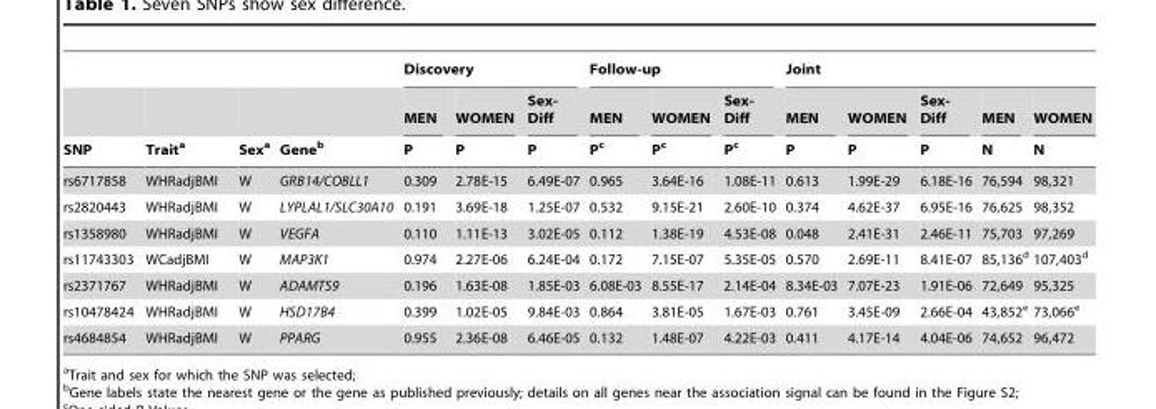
<table><thead><tr><td rowspan="3">SNP</td><td rowspan="3">Trait<sup>a</sup></td><td rowspan="3">Sex<sup>a</sup></td><td rowspan="3">Gene<sup>b</sup></td><td colspan="3">Discovery</td><td colspan="3">Follow-up</td><td colspan="5">Joint</td></tr><tr><td rowspan="2">MEN P</td><td rowspan="2">WOMEN P</td><td rowspan="2">Sex- Diff P</td><td rowspan="2">MEN P<sup>c</sup></td><td rowspan="2">WOMEN P<sup>c</sup></td><td rowspan="2">Sex- Diff P<sup>c</sup></td><td rowspan="2">MEN P</td><td rowspan="2">WOMEN P</td><td rowspan="2">Sex- Diff P</td><td rowspan="2">MEN N</td><td rowspan="2">WOMEN N</td></tr><tr></tr></thead><tbody><tr><td>rs6717858</td><td>WHRadjBMI</td><td>W</td><td>GRB14/COBLL1</td><td>0.309</td><td>2.78E-15</td><td>6.49E-07</td><td>0.965</td><td>3.64E-16</td><td>1.08E-11</td><td>0.613</td><td>1.99E-29</td><td>6.18E-16</td><td>76,594</td><td>98,321</td></tr><tr><td>rs2820443</td><td>WHRadjBMI</td><td>W</td><td>LYPLAL1/SLC30A10</td><td>0.191</td><td>3.69E-18</td><td>1.25E-07</td><td>0.532</td><td>9.15E-21</td><td>2.60E-10</td><td>0.374</td><td>4.62E-37</td><td>6.95E-16</td><td>76,625</td><td>98,352</td></tr><tr><td>rs1358980</td><td>WHRadjBMI</td><td>W</td><td>VEGFA</td><td>0.110</td><td>1.11E-13</td><td>3.02E-05</td><td>0.112</td><td>1.38E-19</td><td>4.53E-08</td><td>0.048</td><td>2.41E-31</td><td>2.46E-11</td><td>75,703</td><td>97,269</td></tr><tr><td>rs11743303</td><td>WCadjBMI</td><td>W</td><td>MAP3K1</td><td>0.974</td><td>2.27E-06</td><td>6.24E-04</td><td>0.172</td><td>7.15E-07</td><td>5.35E-05</td><td>0.570</td><td>2.69E-11</td><td>8.41E-07</td><td>85,136<sup>d</sup></td><td>107,403<sup>d</sup></td></tr><tr><td>rs2371767</td><td>WHRadjBMI</td><td>W</td><td>ADAMTS9</td><td>0.196</td><td>1.63E-08</td><td>1.85E-03</td><td>6.08E-03</td><td>8.55E-17</td><td>2.14E-04</td><td>8.34E-03</td><td>7.07E-23</td><td>1.91E-06</td><td>72,649</td><td>95,325</td></tr><tr><td>rs10478424</td><td>WHRadjBMI</td><td>W</td><td>HSD17B4</td><td>0.399</td><td>1.02E-05</td><td>9.84E-03</td><td>0.864</td><td>3.81E-05</td><td>1.67E-03</td><td>0.761</td><td>3.45E-09</td><td>2.66E-04</td><td>43,852<sup>e</sup></td><td>73,066<sup>e</sup></td></tr><tr><td>rs4684854</td><td>WHRadjBMI</td><td>W</td><td>PPARG</td><td>0.955</td><td>2.36E-08</td><td>6.46E-05</td><td>0.132</td><td>1.48E-07</td><td>4.22E-03</td><td>0.411</td><td>4.17E-14</td><td>4.04E-06</td><td>74,652</td><td>96,472</td></tr></tbody></table>